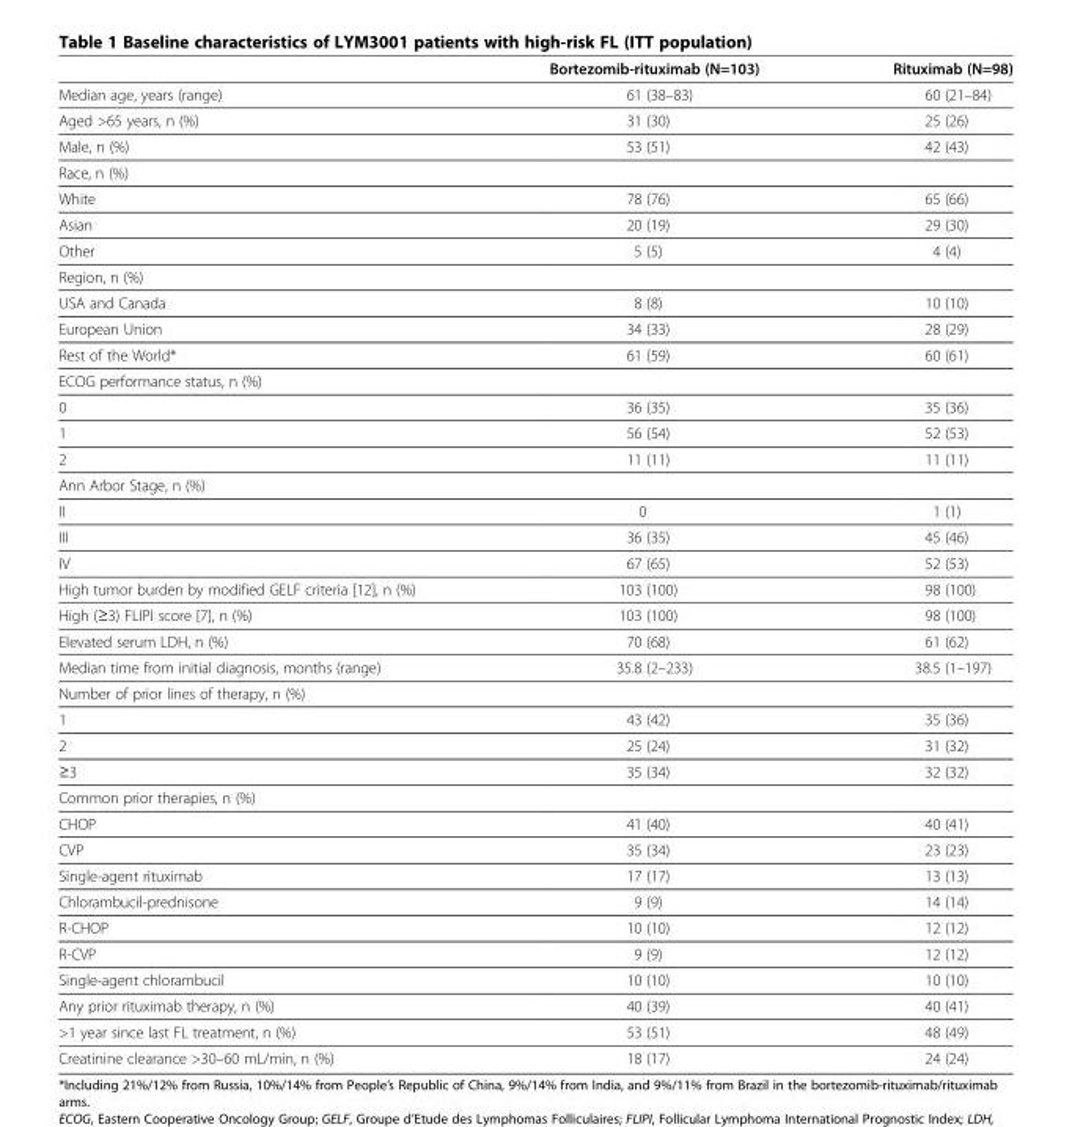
<table><thead><tr><td></td><td>Bortezomib-rituximab (N=103)</td><td>Rituximab (N=98)</td></tr></thead><tbody><tr><td>Median age, years (range)</td><td>61 (38–83)</td><td>60 (21–84)</td></tr><tr><td>Aged &gt;65 years, n (%)</td><td>31 (30)</td><td>25 (26)</td></tr><tr><td>Male, n (%)</td><td>53 (51)</td><td>42 (43)</td></tr><tr><td colspan="3">Race, n (%)</td></tr><tr><td>White</td><td>78 (76)</td><td>65 (66)</td></tr><tr><td>Asian</td><td>20 (19)</td><td>29 (30)</td></tr><tr><td>Other</td><td>5 (5)</td><td>4 (4)</td></tr><tr><td colspan="3">Region, n (%)</td></tr><tr><td>USA and Canada</td><td>8 (8)</td><td>10 (10)</td></tr><tr><td>European Union</td><td>34 (33)</td><td>28 (29)</td></tr><tr><td>Rest of the World*</td><td>61 (59)</td><td>60 (61)</td></tr><tr><td colspan="3">ECOG performance status, n (%)</td></tr><tr><td>0</td><td>36 (35)</td><td>35 (36)</td></tr><tr><td>1</td><td>56 (54)</td><td>52 (53)</td></tr><tr><td>2</td><td>11 (11)</td><td>11 (11)</td></tr><tr><td colspan="3">Ann Arbor Stage, n (%)</td></tr><tr><td>II</td><td>0</td><td>1 (1)</td></tr><tr><td>III</td><td>36 (35)</td><td>45 (46)</td></tr><tr><td>IV</td><td>67 (65)</td><td>52 (53)</td></tr><tr><td>High tumor burden by modified GELF criteria [12], n (%)</td><td>103 (100)</td><td>98 (100)</td></tr><tr><td>High (≥3) FLIPI score [7], n (%)</td><td>103 (100)</td><td>98 (100)</td></tr><tr><td>Elevated serum LDH, n (%)</td><td>70 (68)</td><td>61 (62)</td></tr><tr><td>Median time from initial diagnosis, months (range)</td><td>35.8 (2–233)</td><td>38.5 (1–197)</td></tr><tr><td colspan="3">Number of prior lines of therapy, n (%)</td></tr><tr><td>1</td><td>43 (42)</td><td>35 (36)</td></tr><tr><td>2</td><td>25 (24)</td><td>31 (32)</td></tr><tr><td>≥3</td><td>35 (34)</td><td>32 (32)</td></tr><tr><td colspan="3">Common prior therapies, n (%)</td></tr><tr><td>CHOP</td><td>41 (40)</td><td>40 (41)</td></tr><tr><td>CVP</td><td>35 (34)</td><td>23 (23)</td></tr><tr><td>Single-agent rituximab</td><td>17 (17)</td><td>13 (13)</td></tr><tr><td>Chlorambucil-prednisone</td><td>9 (9)</td><td>14 (14)</td></tr><tr><td>R-CHOP</td><td>10 (10)</td><td>12 (12)</td></tr><tr><td>R-CVP</td><td>9 (9)</td><td>12 (12)</td></tr><tr><td>Single-agent chlorambucil</td><td>10 (10)</td><td>10 (10)</td></tr><tr><td>Any prior rituximab therapy, n (%)</td><td>40 (39)</td><td>40 (41)</td></tr><tr><td>&gt;1 year since last FL treatment, n (%)</td><td>53 (51)</td><td>48 (49)</td></tr><tr><td>Creatinine clearance &gt;30–60 mL/min, n (%)</td><td>18 (17)</td><td>24 (24)</td></tr></tbody></table>